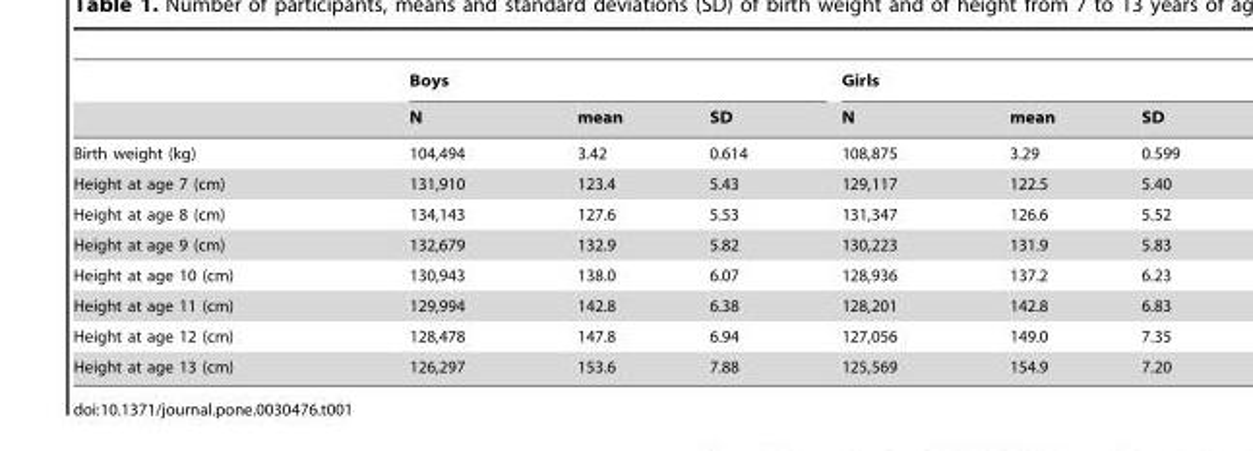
<table><thead><tr><td rowspan="2"></td><td colspan="3">Boys</td><td colspan="3">Girls</td></tr><tr><td>N</td><td>mean</td><td>SD</td><td>N</td><td>mean</td><td>SD</td></tr></thead><tbody><tr><td>Birth weight (kg)</td><td>104,494</td><td>3.42</td><td>0.614</td><td>108,875</td><td>3.29</td><td>0.599</td></tr><tr><td>Height at age 7 (cm)</td><td>131,910</td><td>123.4</td><td>5.43</td><td>129,117</td><td>122.5</td><td>5.40</td></tr><tr><td>Height at age 8 (cm)</td><td>134,143</td><td>127.6</td><td>5.53</td><td>131,347</td><td>126.6</td><td>5.52</td></tr><tr><td>Height at age 9 (cm)</td><td>132,679</td><td>132.9</td><td>5.82</td><td>130,223</td><td>131.9</td><td>5.83</td></tr><tr><td>Height at age 10 (cm)</td><td>130,943</td><td>138.0</td><td>6.07</td><td>128,936</td><td>137.2</td><td>6.23</td></tr><tr><td>Height at age 11 (cm)</td><td>129,994</td><td>142.8</td><td>6.38</td><td>128,201</td><td>142.8</td><td>6.83</td></tr><tr><td>Height at age 12 (cm)</td><td>128,478</td><td>147.8</td><td>6.94</td><td>127,056</td><td>149.0</td><td>7.35</td></tr><tr><td>Height at age 13 (cm)</td><td>126,297</td><td>153.6</td><td>7.88</td><td>125,569</td><td>154.9</td><td>7.20</td></tr></tbody></table>